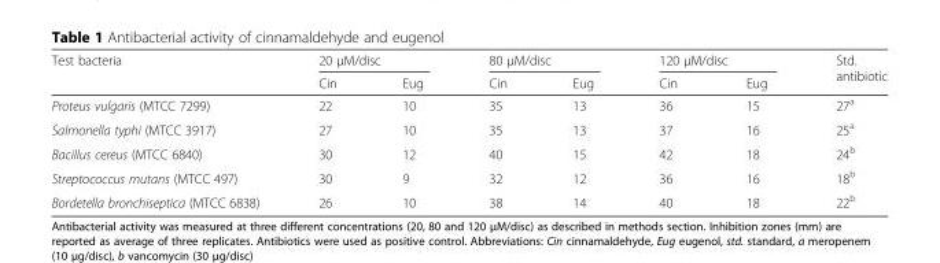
<table><thead><tr><td rowspan="2">Test bacteria</td><td colspan="2">20 μM/disc</td><td colspan="2">80 μM/disc</td><td colspan="2">120 μM/disc</td><td rowspan="2">Std. antibiotic</td></tr><tr><td>Cin</td><td>Eug</td><td>Cin</td><td>Eug</td><td>Cin</td><td>Eug</td></tr></thead><tbody><tr><td>Proteus vulgaris (MTCC 7299)</td><td>22</td><td>10</td><td>35</td><td>13</td><td>36</td><td>15</td><td>27<sup>a</sup></td></tr><tr><td>Salmonella typhi (MTCC 3917)</td><td>27</td><td>10</td><td>35</td><td>13</td><td>37</td><td>16</td><td>25<sup>a</sup></td></tr><tr><td>Bacillus cereus (MTCC 6840)</td><td>30</td><td>12</td><td>40</td><td>15</td><td>42</td><td>18</td><td>24<sup>b</sup></td></tr><tr><td>Streptococcus mutans (MTCC 497)</td><td>30</td><td>9</td><td>32</td><td>12</td><td>36</td><td>16</td><td>18<sup>b</sup></td></tr><tr><td>Bordetella bronchiseptica (MTCC 6838)</td><td>26</td><td>10</td><td>38</td><td>14</td><td>40</td><td>18</td><td>22<sup>b</sup></td></tr></tbody></table>